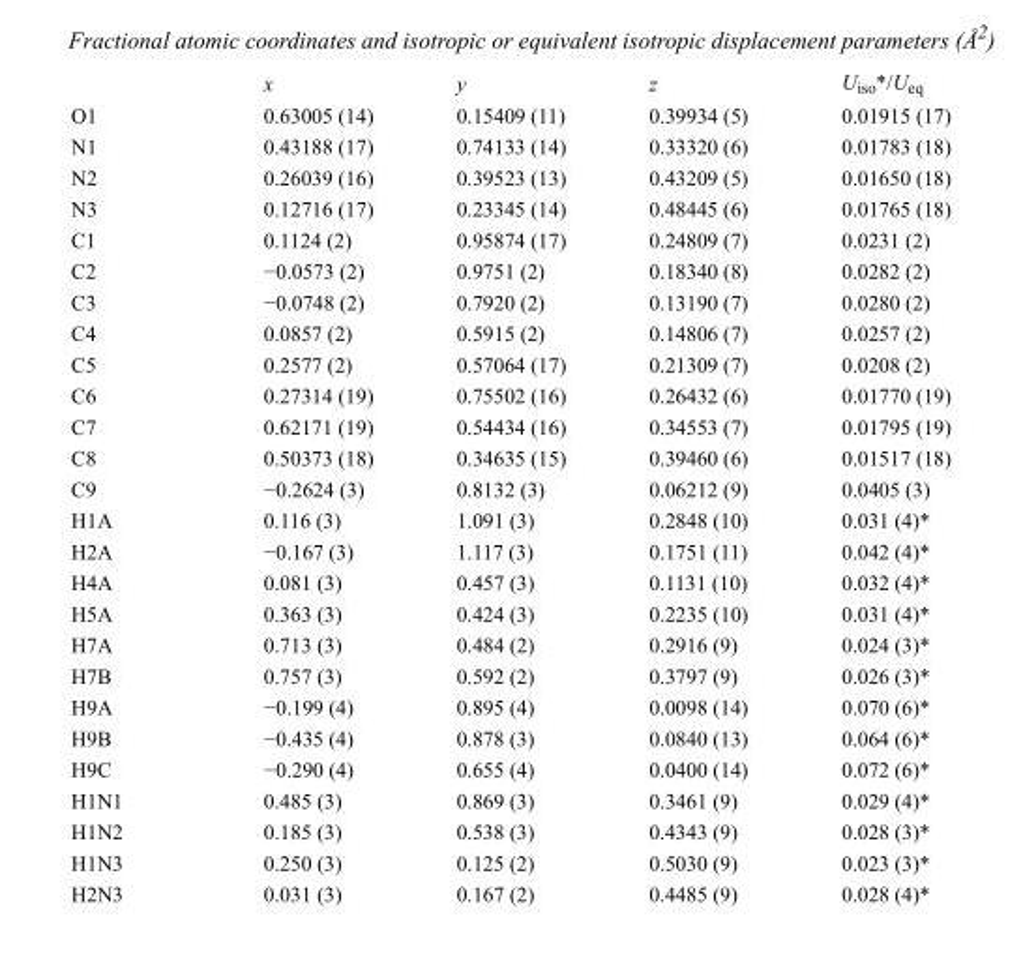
<table><thead><tr><td></td><td>x</td><td>y</td><td>z</td><td>U<sub>iso</sub>*/U<sub>eq</sub></td></tr></thead><tbody><tr><td>O1</td><td>0.63005 (14)</td><td>0.15409 (11)</td><td>0.39934 (5)</td><td>0.01915 (17)</td></tr><tr><td>N1</td><td>0.43188 (17)</td><td>0.74133 (14)</td><td>0.33320 (6)</td><td>0.01783 (18)</td></tr><tr><td>N2</td><td>0.26039 (16)</td><td>0.39523 (13)</td><td>0.43209 (5)</td><td>0.01650 (18)</td></tr><tr><td>N3</td><td>0.12716 (17)</td><td>0.23345 (14)</td><td>0.48445 (6)</td><td>0.01765 (18)</td></tr><tr><td>C1</td><td>0.1124 (2)</td><td>0.95874 (17)</td><td>0.24809 (7)</td><td>0.0231 (2)</td></tr><tr><td>C2</td><td>−0.0573 (2)</td><td>0.9751 (2)</td><td>0.18340 (8)</td><td>0.0282 (2)</td></tr><tr><td>C3</td><td>−0.0748 (2)</td><td>0.7920 (2)</td><td>0.13190 (7)</td><td>0.0280 (2)</td></tr><tr><td>C4</td><td>0.0857 (2)</td><td>0.5915 (2)</td><td>0.14806 (7)</td><td>0.0257 (2)</td></tr><tr><td>C5</td><td>0.2577 (2)</td><td>0.57064 (17)</td><td>0.21309 (7)</td><td>0.0208 (2)</td></tr><tr><td>C6</td><td>0.27314 (19)</td><td>0.75502 (16)</td><td>0.26432 (6)</td><td>0.01770 (19)</td></tr><tr><td>C7</td><td>0.62171 (19)</td><td>0.54434 (16)</td><td>0.34553 (7)</td><td>0.01795 (19)</td></tr><tr><td>C8</td><td>0.50373 (18)</td><td>0.34635 (15)</td><td>0.39460 (6)</td><td>0.01517 (18)</td></tr><tr><td>C9</td><td>−0.2624 (3)</td><td>0.8132 (3)</td><td>0.06212 (9)</td><td>0.0405 (3)</td></tr><tr><td>H1A</td><td>0.116 (3)</td><td>1.091 (3)</td><td>0.2848 (10)</td><td>0.031 (4)*</td></tr><tr><td>H2A</td><td>−0.167 (3)</td><td>1.117 (3)</td><td>0.1751 (11)</td><td>0.042 (4)*</td></tr><tr><td>H4A</td><td>0.081 (3)</td><td>0.457 (3)</td><td>0.1131 (10)</td><td>0.032 (4)*</td></tr><tr><td>H5A</td><td>0.363 (3)</td><td>0.424 (3)</td><td>0.2235 (10)</td><td>0.031 (4)*</td></tr><tr><td>H7A</td><td>0.713 (3)</td><td>0.484 (2)</td><td>0.2916 (9)</td><td>0.024 (3)*</td></tr><tr><td>H7B</td><td>0.757 (3)</td><td>0.592 (2)</td><td>0.3797 (9)</td><td>0.026 (3)*</td></tr><tr><td>H9A</td><td>−0.199 (4)</td><td>0.895 (4)</td><td>0.0098 (14)</td><td>0.070 (6)*</td></tr><tr><td>H9B</td><td>−0.435 (4)</td><td>0.878 (3)</td><td>0.0840 (13)</td><td>0.064 (6)*</td></tr><tr><td>H9C</td><td>−0.290 (4)</td><td>0.655 (4)</td><td>0.0400 (14)</td><td>0.072 (6)*</td></tr><tr><td>H1N1</td><td>0.485 (3)</td><td>0.869 (3)</td><td>0.3461 (9)</td><td>0.029 (4)*</td></tr><tr><td>H1N2</td><td>0.185 (3)</td><td>0.538 (3)</td><td>0.4343 (9)</td><td>0.028 (3)*</td></tr><tr><td>H1N3</td><td>0.250 (3)</td><td>0.125 (2)</td><td>0.5030 (9)</td><td>0.023 (3)*</td></tr><tr><td>H2N3</td><td>0.031 (3)</td><td>0.167 (2)</td><td>0.4485 (9)</td><td>0.028 (4)*</td></tr></tbody></table>